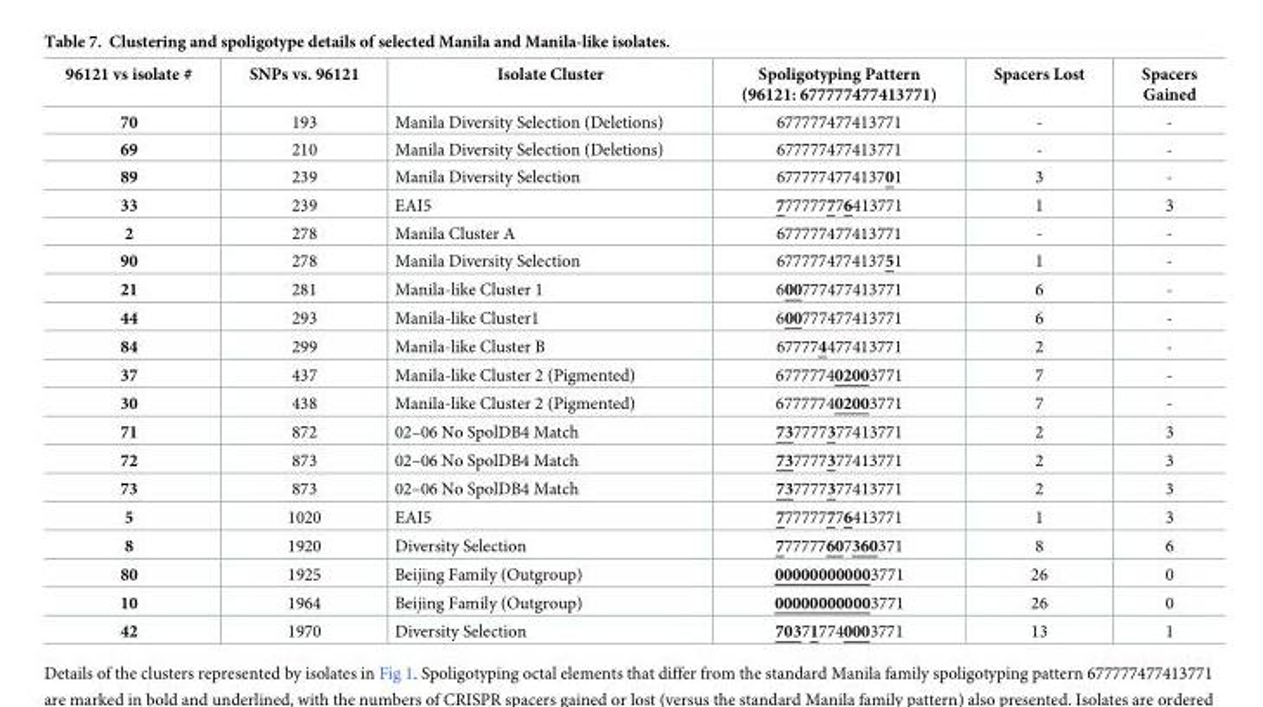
<table><thead><tr><td>96121 vs isolate #</td><td>SNPs vs. 96121</td><td>Isolate Cluster</td><td>Spoligotyping Pattern (96121: 677777477413771)</td><td>Spacers Lost</td><td>Spacers Gained</td></tr></thead><tbody><tr><td>70</td><td>193</td><td>Manila Diversity Selection (Deletions)</td><td>677777477413771</td><td>-</td><td>-</td></tr><tr><td>69</td><td>210</td><td>Manila Diversity Selection (Deletions)</td><td>677777477413771</td><td>-</td><td>-</td></tr><tr><td>89</td><td>239</td><td>Manila Diversity Selection</td><td>677777477413701</td><td>3</td><td>-</td></tr><tr><td>33</td><td>239</td><td>EAI5</td><td>777777776413771</td><td>1</td><td>3</td></tr><tr><td>2</td><td>278</td><td>Manila Cluster A</td><td>677777477413771</td><td>-</td><td>-</td></tr><tr><td>90</td><td>278</td><td>Manila Diversity Selection</td><td>677777477413751</td><td>1</td><td>-</td></tr><tr><td>21</td><td>281</td><td>Manila-like Cluster 1</td><td>600777477413771</td><td>6</td><td>-</td></tr><tr><td>44</td><td>293</td><td>Manila-like Cluster1</td><td>600777477413771</td><td>6</td><td>-</td></tr><tr><td>84</td><td>299</td><td>Manila-like Cluster B</td><td>677774477413771</td><td>2</td><td>-</td></tr><tr><td>37</td><td>437</td><td>Manila-like Cluster 2 (Pigmented)</td><td>677777402003771</td><td>7</td><td>-</td></tr><tr><td>30</td><td>438</td><td>Manila-like Cluster 2 (Pigmented)</td><td>677777402003771</td><td>7</td><td>-</td></tr><tr><td>71</td><td>872</td><td>02–06 No SpolDB4 Match</td><td>737777377413771</td><td>2</td><td>3</td></tr><tr><td>72</td><td>873</td><td>02–06 No SpolDB4 Match</td><td>737777377413771</td><td>2</td><td>3</td></tr><tr><td>73</td><td>873</td><td>02–06 No SpolDB4 Match</td><td>737777377413771</td><td>2</td><td>3</td></tr><tr><td>5</td><td>1020</td><td>EAI5</td><td>777777776413771</td><td>1</td><td>3</td></tr><tr><td>8</td><td>1920</td><td>Diversity Selection</td><td>777777607360371</td><td>8</td><td>6</td></tr><tr><td>80</td><td>1925</td><td>Beijing Family (Outgroup)</td><td>000000000003771</td><td>26</td><td>0</td></tr><tr><td>10</td><td>1964</td><td>Beijing Family (Outgroup)</td><td>000000000003771</td><td>26</td><td>0</td></tr><tr><td>42</td><td>1970</td><td>Diversity Selection</td><td>703717740003771</td><td>13</td><td>1</td></tr></tbody></table>